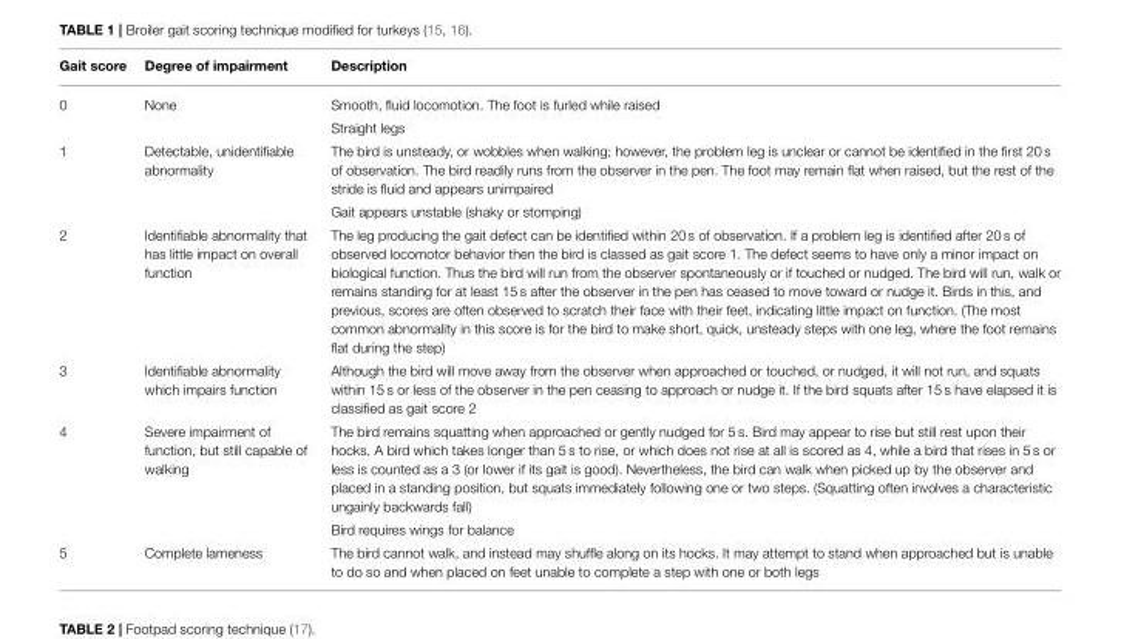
<table><thead><tr><td>Gait score</td><td>Degree of impairment</td><td>Description</td></tr></thead><tbody><tr><td rowspan="2">0</td><td>None</td><td>Smooth, fluid locomotion. The foot is furled while raised</td></tr><tr><td></td><td>Straight legs</td></tr><tr><td rowspan="2">1</td><td>Detectable, unidentifiable abnormality</td><td>The bird is unsteady, or wobbles when walking; however, the problem leg is unclear or cannot be identified in the first 20 s of observation. The bird readily runs from the observer in the pen. The foot may remain flat when raised, but the rest of the stride is fluid and appears unimpaired</td></tr><tr><td></td><td>Gait appears unstable (shaky or stomping)</td></tr><tr><td>2</td><td>Identifiable abnormality that has little impact on overall function</td><td>The leg producing the gait defect can be identified within 20 s of observation. If a problem leg is identified after 20 s of observed locomotor behavior then the bird is classed as gait score 1. The defect seems to have only a minor impact on biological function. Thus the bird will run from the observer spontaneously or if touched or nudged. The bird will run, walk or remains standing for at least 15 s after the observer in the pen has ceased to move toward or nudge it. Birds in this, and previous, scores are often observed to scratch their face with their feet, indicating little impact on function. (The most common abnormality in this score is for the bird to make short, quick, unsteady steps with one leg, where the foot remains flat during the step)</td></tr><tr><td>3</td><td>Identifiable abnormality which impairs function</td><td>Although the bird will move away from the observer when approached or touched, or nudged, it will not run, and squats within 15 s or less of the observer in the pen ceasing to approach or nudge it. If the bird squats after 15 s have elapsed it is classified as gait score 2</td></tr><tr><td rowspan="2">4</td><td>Severe impairment of function, but still capable of walking</td><td>The bird remains squatting when approached or gently nudged for 5 s. Bird may appear to rise but still rest upon their hocks. A bird which takes longer than 5 s to rise, or which does not rise at all is scored as 4, while a bird that rises in 5 s or less is counted as a 3 (or lower if its gait is good). Nevertheless, the bird can walk when picked up by the observer and placed in a standing position, but squats immediately following one or two steps. (Squatting often involves a characteristic ungainly backwards fall)</td></tr><tr><td></td><td>Bird requires wings for balance</td></tr><tr><td>5</td><td>Complete lameness</td><td>The bird cannot walk, and instead may shuffle along on its hocks. It may attempt to stand when approached but is unable to do so and when placed on feet unable to complete a step with one or both legs</td></tr></tbody></table>